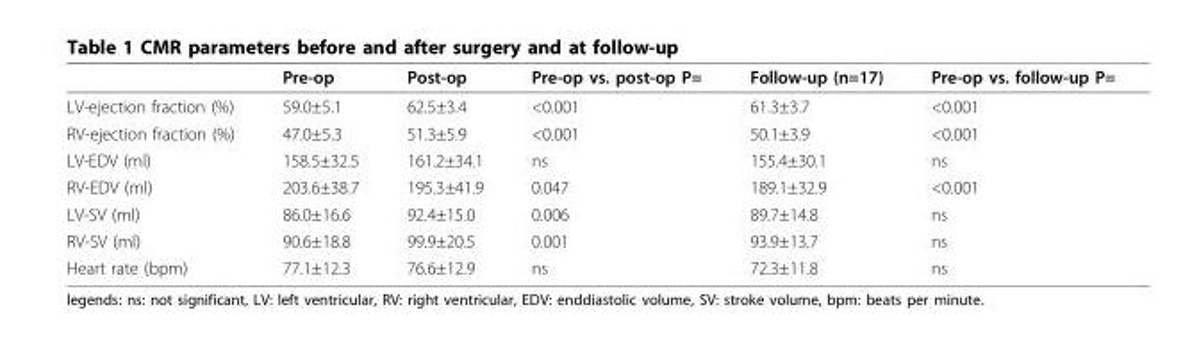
<table><thead><tr><td></td><td>Pre-op</td><td>Post-op</td><td>Pre-op vs. post-op P=</td><td>Follow-up (n=17)</td><td>Pre-op vs. follow-up P=</td></tr></thead><tbody><tr><td>LV-ejection fraction (%)</td><td>59.0±5.1</td><td>62.5±3.4</td><td>&lt;0.001</td><td>61.3±3.7</td><td>&lt;0.001</td></tr><tr><td>RV-ejection fraction (%)</td><td>47.0±5.3</td><td>51.3±5.9</td><td>&lt;0.001</td><td>50.1±3.9</td><td>&lt;0.001</td></tr><tr><td>LV-EDV (ml)</td><td>158.5±32.5</td><td>161.2±34.1</td><td>ns</td><td>155.4±30.1</td><td>ns</td></tr><tr><td>RV-EDV (ml)</td><td>203.6±38.7</td><td>195.3±41.9</td><td>0.047</td><td>189.1±32.9</td><td>&lt;0.001</td></tr><tr><td>LV-SV (ml)</td><td>86.0±16.6</td><td>92.4±15.0</td><td>0.006</td><td>89.7±14.8</td><td>ns</td></tr><tr><td>RV-SV (ml)</td><td>90.6±18.8</td><td>99.9±20.5</td><td>0.001</td><td>93.9±13.7</td><td>ns</td></tr><tr><td>Heart rate (bpm)</td><td>77.1±12.3</td><td>76.6±12.9</td><td>ns</td><td>72.3±11.8</td><td>ns</td></tr></tbody></table>